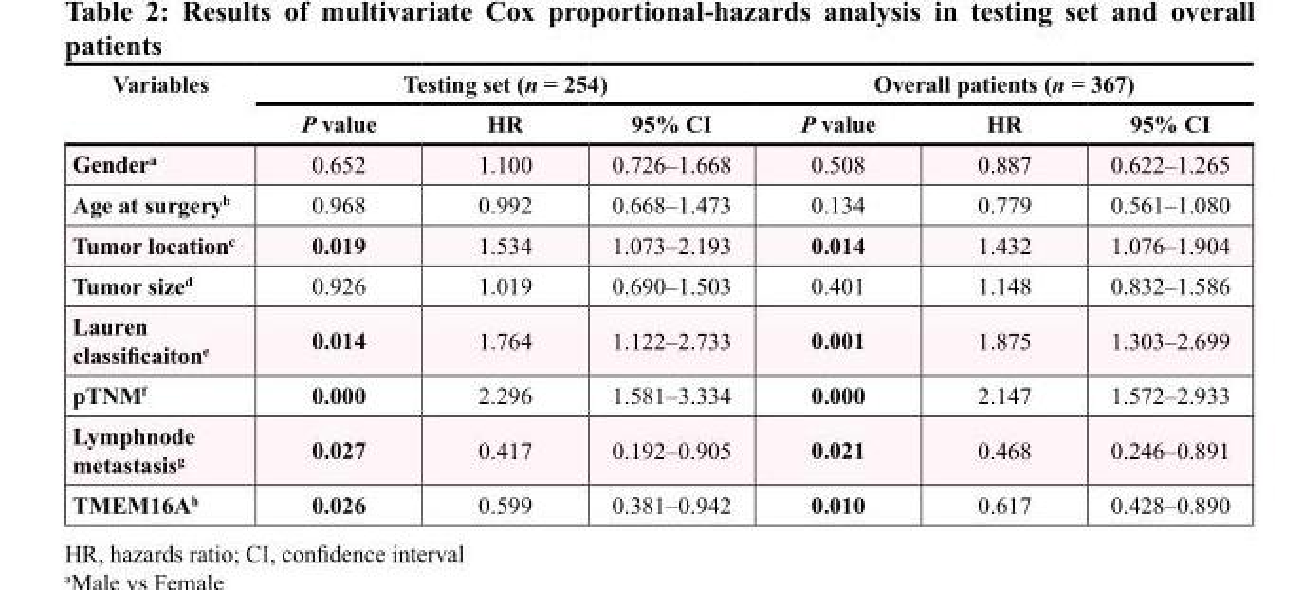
<table><thead><tr><td rowspan="2">Variables</td><td colspan="3">Testing set (n = 254)</td><td colspan="3">Overall patients (n = 367)</td></tr><tr><td>P value</td><td>HR</td><td>95% CI</td><td>P value</td><td>HR</td><td>95% CI</td></tr></thead><tbody><tr><td>Gender<sup>a</sup></td><td>0.652</td><td>1.100</td><td>0.726–1.668</td><td>0.508</td><td>0.887</td><td>0.622–1.265</td></tr><tr><td>Age at surgery<sup>b</sup></td><td>0.968</td><td>0.992</td><td>0.668–1.473</td><td>0.134</td><td>0.779</td><td>0.561–1.080</td></tr><tr><td>Tumor location<sup>c</sup></td><td>0.019</td><td>1.534</td><td>1.073–2.193</td><td>0.014</td><td>1.432</td><td>1.076–1.904</td></tr><tr><td>Tumor size<sup>d</sup></td><td>0.926</td><td>1.019</td><td>0.690–1.503</td><td>0.401</td><td>1.148</td><td>0.832–1.586</td></tr><tr><td>Lauren classificaiton<sup>e</sup></td><td>0.014</td><td>1.764</td><td>1.122–2.733</td><td>0.001</td><td>1.875</td><td>1.303–2.699</td></tr><tr><td>pTNM<sup>f</sup></td><td>0.000</td><td>2.296</td><td>1.581–3.334</td><td>0.000</td><td>2.147</td><td>1.572–2.933</td></tr><tr><td>Lymphnode metastasis<sup>g</sup></td><td>0.027</td><td>0.417</td><td>0.192–0.905</td><td>0.021</td><td>0.468</td><td>0.246–0.891</td></tr><tr><td>TMEM16A<sup>h</sup></td><td>0.026</td><td>0.599</td><td>0.381–0.942</td><td>0.010</td><td>0.617</td><td>0.428–0.890</td></tr></tbody></table>